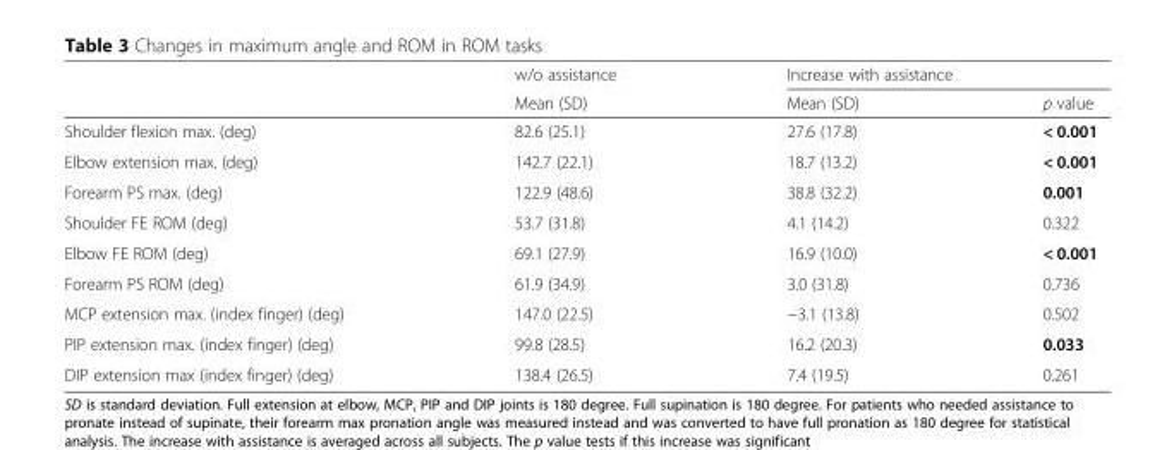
<table><thead><tr><td rowspan="2"></td><td rowspan="2">w/o assistance Mean (SD)</td><td colspan="2">Increase with assistance</td></tr><tr><td>Mean (SD)</td><td>p value</td></tr></thead><tbody><tr><td>Shoulder flexion max. (deg)</td><td>82.6 (25.1)</td><td>27.6 (17.8)</td><td>&lt; 0.001</td></tr><tr><td>Elbow extension max. (deg)</td><td>142.7 (22.1)</td><td>18.7 (13.2)</td><td>&lt; 0.001</td></tr><tr><td>Forearm PS max. (deg)</td><td>122.9 (48.6)</td><td>38.8 (32.2)</td><td>0.001</td></tr><tr><td>Shoulder FE ROM (deg)</td><td>53.7 (31.8)</td><td>4.1 (14.2)</td><td>0.322</td></tr><tr><td>Elbow FE ROM (deg)</td><td>69.1 (27.9)</td><td>16.9 (10.0)</td><td>&lt; 0.001</td></tr><tr><td>Forearm PS ROM (deg)</td><td>61.9 (34.9)</td><td>3.0 (31.8)</td><td>0.736</td></tr><tr><td>MCP extension max. (index finger) (deg)</td><td>147.0 (22.5)</td><td>−3.1 (13.8)</td><td>0.502</td></tr><tr><td>PIP extension max. (index finger) (deg)</td><td>99.8 (28.5)</td><td>16.2 (20.3)</td><td>0.033</td></tr><tr><td>DIP extension max (index finger) (deg)</td><td>138.4 (26.5)</td><td>7.4 (19.5)</td><td>0.261</td></tr></tbody></table>